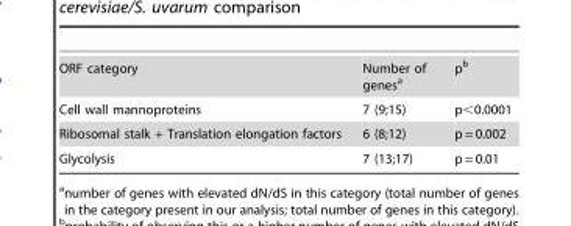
<table><tbody><tr><td>ORF category</td><td>Number of genes<sup>a</sup></td><td>p<sup>b</sup></td></tr><tr><td>Cell wall mannoproteins</td><td>7 (9;15)</td><td>p&lt;0.0001</td></tr><tr><td>Ribosomal stalk + Translation elongation factors</td><td>6 (8;12)</td><td>p = 0.002</td></tr><tr><td>Glycolysis</td><td>7 (13;17)</td><td>p = 0.01</td></tr></tbody></table>